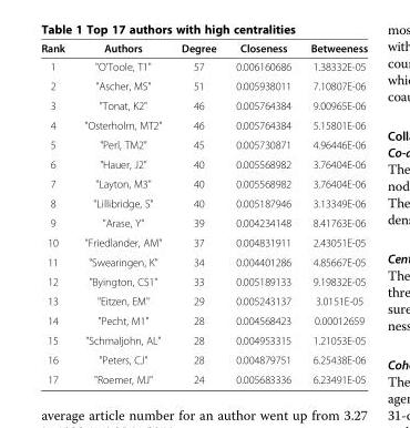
<table><thead><tr><td>Rank</td><td>Authors</td><td>Degree</td><td>Closeness</td><td>Betweeness</td></tr></thead><tbody><tr><td>1</td><td>&quot;O&#x27;Toole, T1&quot;</td><td>57</td><td>0.006160686</td><td>1.38332E-05</td></tr><tr><td>2</td><td>&quot;Ascher, MS&quot;</td><td>51</td><td>0.005938011</td><td>7.10807E-06</td></tr><tr><td>3</td><td>&quot;Tonat, K2&quot;</td><td>46</td><td>0.005764384</td><td>9.00965E-06</td></tr><tr><td>4</td><td>&quot;Osterholm, MT2&quot;</td><td>46</td><td>0.005764384</td><td>5.15801E-06</td></tr><tr><td>5</td><td>&quot;Perl, TM2&quot;</td><td>45</td><td>0.005730871</td><td>4.96446E-06</td></tr><tr><td>6</td><td>&quot;Hauer, J2&quot;</td><td>40</td><td>0.005568982</td><td>3.76404E-06</td></tr><tr><td>7</td><td>&quot;Layton, M3&quot;</td><td>40</td><td>0.005568982</td><td>3.76404E-06</td></tr><tr><td>8</td><td>&quot;Lillibridge, S&quot;</td><td>40</td><td>0.005187946</td><td>3.13349E-06</td></tr><tr><td>9</td><td>&quot;Arase, Y&quot;</td><td>39</td><td>0.004234148</td><td>8.41763E-06</td></tr><tr><td>10</td><td>&quot;Friedlander, AM&quot;</td><td>37</td><td>0.004831911</td><td>2.43051E-05</td></tr><tr><td>11</td><td>&quot;Swearingen, K&quot;</td><td>34</td><td>0.004401286</td><td>4.85667E-05</td></tr><tr><td>12</td><td>&quot;Byington, CS1&quot;</td><td>33</td><td>0.005189133</td><td>9.19832E-05</td></tr><tr><td>13</td><td>&quot;Eitzen, EM&quot;</td><td>29</td><td>0.005243137</td><td>3.0151E-05</td></tr><tr><td>14</td><td>&quot;Pecht, M1&quot;</td><td>28</td><td>0.004568423</td><td>0.00012659</td></tr><tr><td>15</td><td>&quot;Schmaljohn, AL&quot;</td><td>28</td><td>0.004953315</td><td>1.21053E-05</td></tr><tr><td>16</td><td>&quot;Peters, CJ&quot;</td><td>28</td><td>0.004879751</td><td>6.25438E-06</td></tr><tr><td>17</td><td>&quot;Roemer, MJ&quot;</td><td>24</td><td>0.005683336</td><td>6.23491E-05</td></tr></tbody></table>